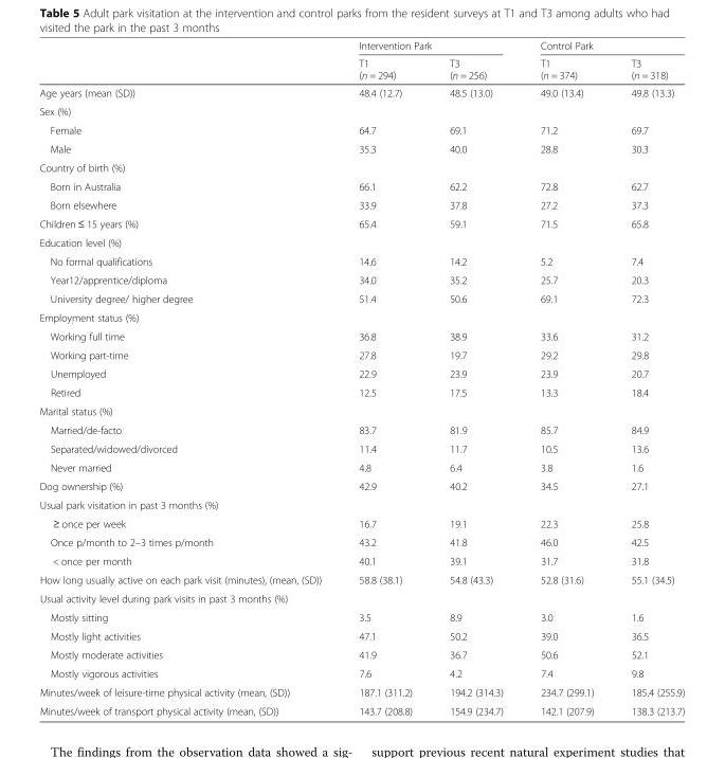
<table><thead><tr><td rowspan="2"></td><td colspan="2">Intervention Park</td><td colspan="2">Control Park</td></tr><tr><td>T1 (n = 294)</td><td>T3 (n = 256)</td><td>T1 (n = 374)</td><td>T3 (n = 318)</td></tr></thead><tbody><tr><td>Age years (mean (SD))</td><td>48.4 (12.7)</td><td>48.5 (13.0)</td><td>49.0 (13.4)</td><td>49.8 (13.3)</td></tr><tr><td colspan="5">Sex (%)</td></tr><tr><td>Female</td><td>64.7</td><td>69.1</td><td>71.2</td><td>69.7</td></tr><tr><td>Male</td><td>35.3</td><td>40.0</td><td>28.8</td><td>30.3</td></tr><tr><td colspan="5">Country of birth (%)</td></tr><tr><td>Born in Australia</td><td>66.1</td><td>62.2</td><td>72.8</td><td>62.7</td></tr><tr><td>Born elsewhere</td><td>33.9</td><td>37.8</td><td>27.2</td><td>37.3</td></tr><tr><td>Children ≤ 15 years (%)</td><td>65.4</td><td>59.1</td><td>71.5</td><td>65.8</td></tr><tr><td colspan="5">Education level (%)</td></tr><tr><td>No formal qualifications</td><td>14.6</td><td>14.2</td><td>5.2</td><td>7.4</td></tr><tr><td>Year12/apprentice/diploma</td><td>34.0</td><td>35.2</td><td>25.7</td><td>20.3</td></tr><tr><td>University degree/ higher degree</td><td>51.4</td><td>50.6</td><td>69.1</td><td>72.3</td></tr><tr><td colspan="5">Employment status (%)</td></tr><tr><td>Working full time</td><td>36.8</td><td>38.9</td><td>33.6</td><td>31.2</td></tr><tr><td>Working part-time</td><td>27.8</td><td>19.7</td><td>29.2</td><td>29.8</td></tr><tr><td>Unemployed</td><td>22.9</td><td>23.9</td><td>23.9</td><td>20.7</td></tr><tr><td>Retired</td><td>12.5</td><td>17.5</td><td>13.3</td><td>18.4</td></tr><tr><td colspan="5">Marital status (%)</td></tr><tr><td>Married/de-facto</td><td>83.7</td><td>81.9</td><td>85.7</td><td>84.9</td></tr><tr><td>Separated/widowed/divorced</td><td>11.4</td><td>11.7</td><td>10.5</td><td>13.6</td></tr><tr><td>Never married</td><td>4.8</td><td>6.4</td><td>3.8</td><td>1.6</td></tr><tr><td>Dog ownership (%)</td><td>42.9</td><td>40.2</td><td>34.5</td><td>27.1</td></tr><tr><td colspan="5">Usual park visitation in past 3 months (%)</td></tr><tr><td>≥ once per week</td><td>16.7</td><td>19.1</td><td>22.3</td><td>25.8</td></tr><tr><td>Once p/month to 2–3 times p/month</td><td>43.2</td><td>41.8</td><td>46.0</td><td>42.5</td></tr><tr><td>&lt; once per month</td><td>40.1</td><td>39.1</td><td>31.7</td><td>31.8</td></tr><tr><td>How long usually active on each park visit (minutes), (mean, (SD))</td><td>58.8 (38.1)</td><td>54.8 (43.3)</td><td>52.8 (31.6)</td><td>55.1 (34.5)</td></tr><tr><td colspan="5">Usual activity level during park visits in past 3 months (%)</td></tr><tr><td>Mostly sitting</td><td>3.5</td><td>8.9</td><td>3.0</td><td>1.6</td></tr><tr><td>Mostly light activities</td><td>47.1</td><td>50.2</td><td>39.0</td><td>36.5</td></tr><tr><td>Mostly moderate activities</td><td>41.9</td><td>36.7</td><td>50.6</td><td>52.1</td></tr><tr><td>Mostly vigorous activities</td><td>7.6</td><td>4.2</td><td>7.4</td><td>9.8</td></tr><tr><td>Minutes/week of leisure-time physical activity (mean, (SD))</td><td>187.1 (311.2)</td><td>194.2 (314.3)</td><td>234.7 (299.1)</td><td>185.4 (255.9)</td></tr><tr><td>Minutes/week of transport physical activity (mean, (SD))</td><td>143.7 (208.8)</td><td>154.9 (234.7)</td><td>142.1 (207.9)</td><td>138.3 (213.7)</td></tr></tbody></table>